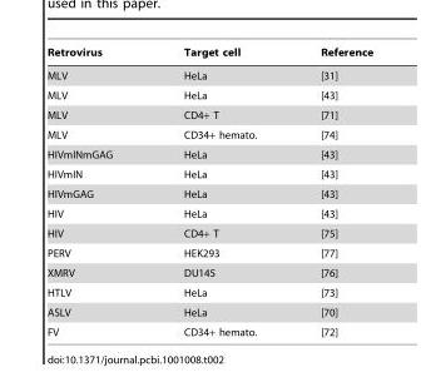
<table><thead><tr><td>Retrovirus</td><td>Target cell</td><td>Reference</td></tr></thead><tbody><tr><td>MLV</td><td>HeLa</td><td>[31]</td></tr><tr><td>MLV</td><td>HeLa</td><td>[43]</td></tr><tr><td>MLV</td><td>CD4+ T</td><td>[71]</td></tr><tr><td>MLV</td><td>CD34+ hemato.</td><td>[74]</td></tr><tr><td>HIVmINmGAG</td><td>HeLa</td><td>[43]</td></tr><tr><td>HIVmIN</td><td>HeLa</td><td>[43]</td></tr><tr><td>HIVmGAG</td><td>HeLa</td><td>[43]</td></tr><tr><td>HIV</td><td>HeLa</td><td>[43]</td></tr><tr><td>HIV</td><td>CD4+ T</td><td>[75]</td></tr><tr><td>PERV</td><td>HEK293</td><td>[77]</td></tr><tr><td>XMRV</td><td>DU145</td><td>[76]</td></tr><tr><td>HTLV</td><td>HeLa</td><td>[73]</td></tr><tr><td>ASLV</td><td>HeLa</td><td>[70]</td></tr><tr><td>FV</td><td>CD34+ hemato.</td><td>[72]</td></tr></tbody></table>